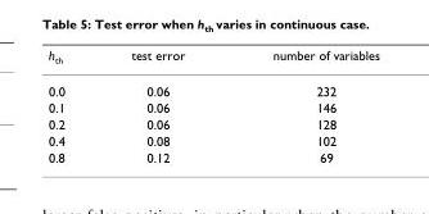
<table><thead><tr><td>hth</td><td>test error</td><td>number of variables</td></tr></thead><tbody><tr><td>0.0</td><td>0.06</td><td>232</td></tr><tr><td>0.1</td><td>0.06</td><td>146</td></tr><tr><td>0.2</td><td>0.06</td><td>128</td></tr><tr><td>0.4</td><td>0.08</td><td>102</td></tr><tr><td>0.8</td><td>0.12</td><td>69</td></tr></tbody></table>